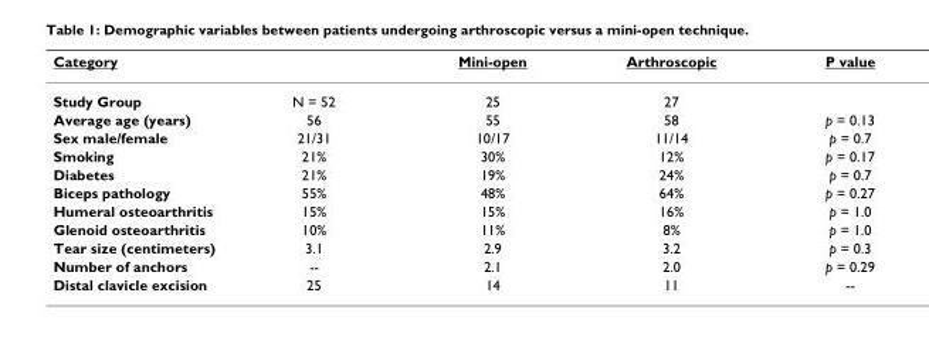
<table><thead><tr><td>Category</td><td></td><td>Mini-open</td><td>Arthroscopic</td><td>P value</td></tr></thead><tbody><tr><td>Study Group</td><td>N = 52</td><td>25</td><td>27</td><td></td></tr><tr><td>Average age (years)</td><td>56</td><td>55</td><td>58</td><td>p = 0.13</td></tr><tr><td>Sex male/female</td><td>21/31</td><td>10/17</td><td>11/14</td><td>p = 0.7</td></tr><tr><td>Smoking</td><td>21%</td><td>30%</td><td>12%</td><td>p = 0.17</td></tr><tr><td>Diabetes</td><td>21%</td><td>19%</td><td>24%</td><td>p = 0.7</td></tr><tr><td>Biceps pathology</td><td>55%</td><td>48%</td><td>64%</td><td>p = 0.27</td></tr><tr><td>Humeral osteoarthritis</td><td>15%</td><td>15%</td><td>16%</td><td>p = 1.0</td></tr><tr><td>Glenoid osteoarthritis</td><td>10%</td><td>11%</td><td>8%</td><td>p = 1.0</td></tr><tr><td>Tear size (centimeters)</td><td>3.1</td><td>2.9</td><td>3.2</td><td>p = 0.3</td></tr><tr><td>Number of anchors</td><td>--</td><td>2.1</td><td>2.0</td><td>p = 0.29</td></tr><tr><td>Distal clavicle excision</td><td>25</td><td>14</td><td>11</td><td>--</td></tr></tbody></table>